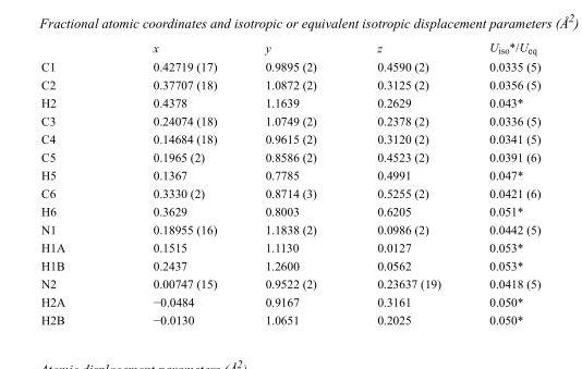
<table><thead><tr><td></td><td>x</td><td>y</td><td>z</td><td>U<sub>iso</sub>*/U<sub>eq</sub></td></tr></thead><tbody><tr><td>C1</td><td>0.42719 (17)</td><td>0.9895 (2)</td><td>0.4590 (2)</td><td>0.0335 (5)</td></tr><tr><td>C2</td><td>0.37707 (18)</td><td>1.0872 (2)</td><td>0.3125 (2)</td><td>0.0356 (5)</td></tr><tr><td>H2</td><td>0.4378</td><td>1.1639</td><td>0.2629</td><td>0.043*</td></tr><tr><td>C3</td><td>0.24074 (18)</td><td>1.0749 (2)</td><td>0.2378 (2)</td><td>0.0336 (5)</td></tr><tr><td>C4</td><td>0.14684 (18)</td><td>0.9615 (2)</td><td>0.3120 (2)</td><td>0.0341 (5)</td></tr><tr><td>C5</td><td>0.1965 (2)</td><td>0.8586 (2)</td><td>0.4523 (2)</td><td>0.0391 (6)</td></tr><tr><td>H5</td><td>0.1367</td><td>0.7785</td><td>0.4991</td><td>0.047*</td></tr><tr><td>C6</td><td>0.3330 (2)</td><td>0.8714 (3)</td><td>0.5255 (2)</td><td>0.0421 (6)</td></tr><tr><td>H6</td><td>0.3629</td><td>0.8003</td><td>0.6205</td><td>0.051*</td></tr><tr><td>N1</td><td>0.18955 (16)</td><td>1.1838 (2)</td><td>0.0986 (2)</td><td>0.0442 (5)</td></tr><tr><td>H1A</td><td>0.1515</td><td>1.1130</td><td>0.0127</td><td>0.053*</td></tr><tr><td>H1B</td><td>0.2437</td><td>1.2600</td><td>0.0562</td><td>0.053*</td></tr><tr><td>N2</td><td>0.00747 (15)</td><td>0.9522 (2)</td><td>0.23637 (19)</td><td>0.0418 (5)</td></tr><tr><td>H2A</td><td>−0.0484</td><td>0.9167</td><td>0.3161</td><td>0.050*</td></tr><tr><td>H2B</td><td>−0.0130</td><td>1.0651</td><td>0.2025</td><td>0.050*</td></tr></tbody></table>